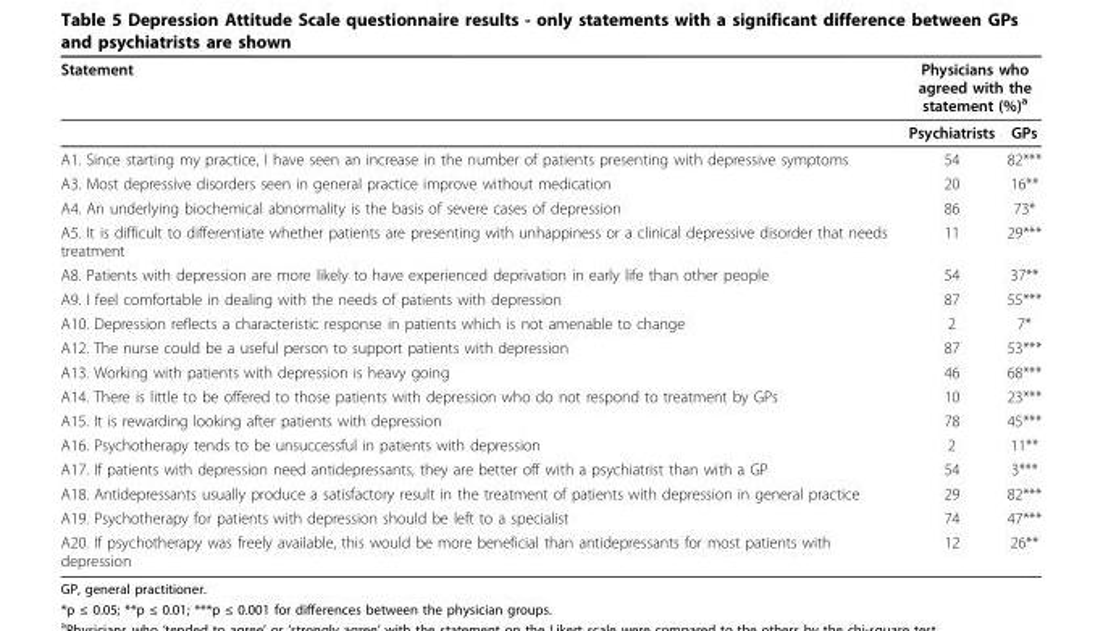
<table><thead><tr><td rowspan="2">Statement</td><td colspan="2">Physicians who agreed with the statement (%)<sup>a</sup></td></tr><tr><td>Psychiatrists</td><td>GPs</td></tr></thead><tbody><tr><td>A1. Since starting my practice, I have seen an increase in the number of patients presenting with depressive symptoms</td><td>54</td><td>82***</td></tr><tr><td>A3. Most depressive disorders seen in general practice improve without medication</td><td>20</td><td>16**</td></tr><tr><td>A4. An underlying biochemical abnormality is the basis of severe cases of depression</td><td>86</td><td>73*</td></tr><tr><td>A5. It is difficult to differentiate whether patients are presenting with unhappiness or a clinical depressive disorder that needs treatment</td><td>11</td><td>29***</td></tr><tr><td>A8. Patients with depression are more likely to have experienced deprivation in early life than other people</td><td>54</td><td>37**</td></tr><tr><td>A9. I feel comfortable in dealing with the needs of patients with depression</td><td>87</td><td>55***</td></tr><tr><td>A10. Depression reflects a characteristic response in patients which is not amenable to change</td><td>2</td><td>7*</td></tr><tr><td>A12. The nurse could be a useful person to support patients with depression</td><td>87</td><td>53***</td></tr><tr><td>A13. Working with patients with depression is heavy going</td><td>46</td><td>68***</td></tr><tr><td>A14. There is little to be offered to those patients with depression who do not respond to treatment by GPs</td><td>10</td><td>23***</td></tr><tr><td>A15. It is rewarding looking after patients with depression</td><td>78</td><td>45***</td></tr><tr><td>A16. Psychotherapy tends to be unsuccessful in patients with depression</td><td>2</td><td>11**</td></tr><tr><td>A17. If patients with depression need antidepressants, they are better off with a psychiatrist than with a GP</td><td>54</td><td>3***</td></tr><tr><td>A18. Antidepressants usually produce a satisfactory result in the treatment of patients with depression in general practice</td><td>29</td><td>82***</td></tr><tr><td>A19. Psychotherapy for patients with depression should be left to a specialist</td><td>74</td><td>47***</td></tr><tr><td>A20. If psychotherapy was freely available, this would be more beneficial than antidepressants for most patients with depression</td><td>12</td><td>26**</td></tr></tbody></table>